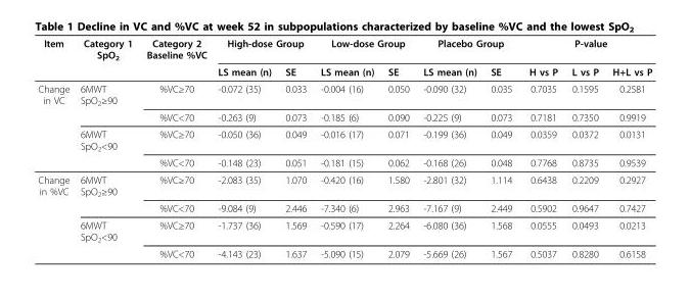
<table><thead><tr><td rowspan="2">Item</td><td rowspan="2">Category 1 SpO<sub>2</sub></td><td rowspan="2">Category 2 Baseline %VC</td><td colspan="2">High-dose Group</td><td colspan="2">Low-dose Group</td><td colspan="2">Placebo Group</td><td colspan="3">P-value</td></tr><tr><td>LS mean (n)</td><td>SE</td><td>LS mean (n)</td><td>SE</td><td>LS mean (n)</td><td>SE</td><td>H vs P</td><td>L vs P</td><td>H+L vs P</td></tr></thead><tbody><tr><td rowspan="4">Change in VC</td><td>6MWT SpO<sub>2</sub>≥90</td><td>%VC≥70</td><td>-0.072 (35)</td><td>0.033</td><td>-0.004 (16)</td><td>0.050</td><td>-0.090 (32)</td><td>0.035</td><td>0.7035</td><td>0.1595</td><td>0.2581</td></tr><tr><td></td><td>%VC&lt;70</td><td>-0.263 (9)</td><td>0.073</td><td>-0.185 (6)</td><td>0.090</td><td>-0.225 (9)</td><td>0.073</td><td>0.7181</td><td>0.7350</td><td>0.9919</td></tr><tr><td>6MWT SpO<sub>2</sub>&lt;90</td><td>%VC≥70</td><td>-0.050 (36)</td><td>0.049</td><td>-0.016 (17)</td><td>0.071</td><td>-0.199 (36)</td><td>0.049</td><td>0.0359</td><td>0.0372</td><td>0.0131</td></tr><tr><td></td><td>%VC&lt;70</td><td>-0.148 (23)</td><td>0.051</td><td>-0.181 (15)</td><td>0.062</td><td>-0.168 (26)</td><td>0.048</td><td>0.7768</td><td>0.8735</td><td>0.9539</td></tr><tr><td rowspan="4">Change in %VC</td><td>6MWT SpO<sub>2</sub>≥90</td><td>%VC≥70</td><td>-2.083 (35)</td><td>1.070</td><td>-0.420 (16)</td><td>1.580</td><td>-2.801 (32)</td><td>1.114</td><td>0.6438</td><td>0.2209</td><td>0.2927</td></tr><tr><td></td><td>%VC&lt;70</td><td>-9.084 (9)</td><td>2.446</td><td>-7.340 (6)</td><td>2.963</td><td>-7.167 (9)</td><td>2.449</td><td>0.5902</td><td>0.9647</td><td>0.7427</td></tr><tr><td>6MWT SpO<sub>2</sub>&lt;90</td><td>%VC≥70</td><td>-1.737 (36)</td><td>1.569</td><td>-0.590 (17)</td><td>2.264</td><td>-6.080 (36)</td><td>1.568</td><td>0.0555</td><td>0.0493</td><td>0.0213</td></tr><tr><td></td><td>%VC&lt;70</td><td>-4.143 (23)</td><td>1.637</td><td>-5.090 (15)</td><td>2.079</td><td>-5.669 (26)</td><td>1.567</td><td>0.5037</td><td>0.8280</td><td>0.6158</td></tr></tbody></table>